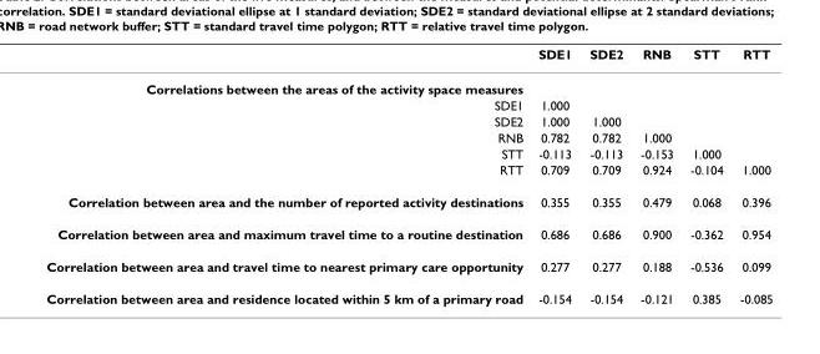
<table><thead><tr><td></td><td>SDE1</td><td>SDE2</td><td>RNB</td><td>STT</td><td>RTT</td></tr></thead><tbody><tr><td colspan="6">Correlations between the areas of the activity space measures</td></tr><tr><td>SDE1</td><td>1.000</td><td></td><td></td><td></td><td></td></tr><tr><td>SDE2</td><td>1.000</td><td>1.000</td><td></td><td></td><td></td></tr><tr><td>RNB</td><td>0.782</td><td>0.782</td><td>1.000</td><td></td><td></td></tr><tr><td>STT</td><td>-0.113</td><td>-0.113</td><td>-0.153</td><td>1.000</td><td></td></tr><tr><td>RTT</td><td>0.709</td><td>0.709</td><td>0.924</td><td>-0.104</td><td>1.000</td></tr><tr><td>Correlation between area and the number of reported activity destinations</td><td>0.355</td><td>0.355</td><td>0.479</td><td>0.068</td><td>0.396</td></tr><tr><td>Correlation between area and maximum travel time to a routine destination</td><td>0.686</td><td>0.686</td><td>0.900</td><td>-0.362</td><td>0.954</td></tr><tr><td>Correlation between area and travel time to nearest primary care opportunity</td><td>0.277</td><td>0.277</td><td>0.188</td><td>-0.536</td><td>0.099</td></tr><tr><td>Correlation between area and residence located within 5 km of a primary road</td><td>-0.154</td><td>-0.154</td><td>-0.121</td><td>0.385</td><td>-0.085</td></tr></tbody></table>